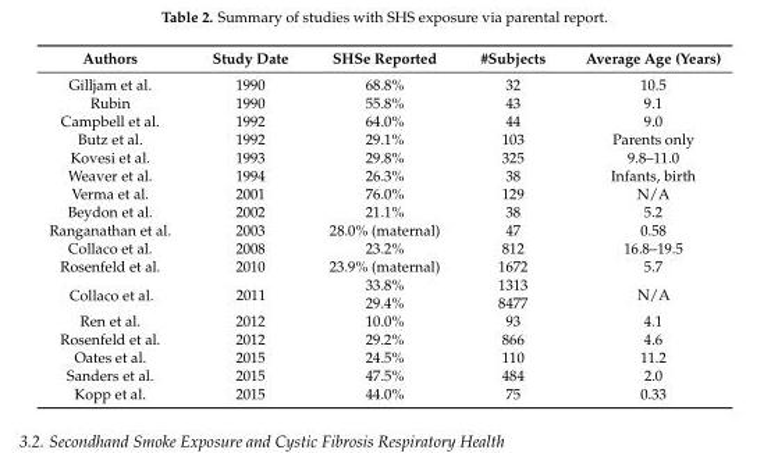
<table><thead><tr><td>Authors</td><td>Study Date</td><td>SHSe Reported</td><td>#Subjects</td><td>Average Age (Years)</td></tr></thead><tbody><tr><td>Gilljam et al.</td><td>1990</td><td>68.8%</td><td>32</td><td>10.5</td></tr><tr><td>Rubin</td><td>1990</td><td>55.8%</td><td>43</td><td>9.1</td></tr><tr><td>Campbell et al.</td><td>1992</td><td>64.0%</td><td>44</td><td>9.0</td></tr><tr><td>Butz et al.</td><td>1992</td><td>29.1%</td><td>103</td><td>Parents only</td></tr><tr><td>Kovesi et al.</td><td>1993</td><td>29.8%</td><td>325</td><td>9.8–11.0</td></tr><tr><td>Weaver et al.</td><td>1994</td><td>26.3%</td><td>38</td><td>Infants, birth</td></tr><tr><td>Verma et al.</td><td>2001</td><td>76.0%</td><td>129</td><td>N/A</td></tr><tr><td>Beydon et al.</td><td>2002</td><td>21.1%</td><td>38</td><td>5.2</td></tr><tr><td>Ranganathan et al.</td><td>2003</td><td>28.0% (maternal)</td><td>47</td><td>0.58</td></tr><tr><td>Collaco et al.</td><td>2008</td><td>23.2%</td><td>812</td><td>16.8–19.5</td></tr><tr><td>Rosenfeld et al.</td><td>2010</td><td>23.9% (maternal)</td><td>1672</td><td>5.7</td></tr><tr><td rowspan="2">Collaco et al.</td><td rowspan="2">2011</td><td>33.8%</td><td>1313</td><td rowspan="2">N/A</td></tr><tr><td>29.4%</td><td>8477</td></tr><tr><td>Ren et al.</td><td>2012</td><td>10.0%</td><td>93</td><td>4.1</td></tr><tr><td>Rosenfeld et al.</td><td>2012</td><td>29.2%</td><td>866</td><td>4.6</td></tr><tr><td>Oates et al.</td><td>2015</td><td>24.5%</td><td>110</td><td>11.2</td></tr><tr><td>Sanders et al.</td><td>2015</td><td>47.5%</td><td>484</td><td>2.0</td></tr><tr><td>Kopp et al.</td><td>2015</td><td>44.0%</td><td>75</td><td>0.33</td></tr></tbody></table>